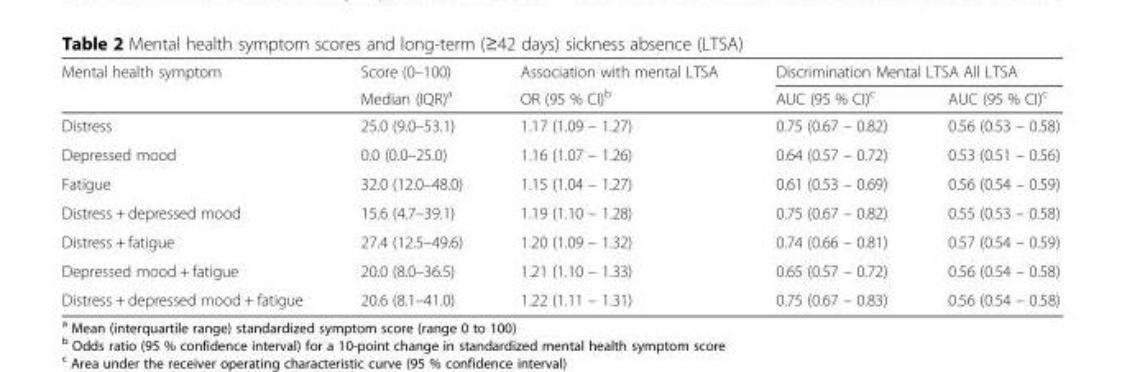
<table><thead><tr><td rowspan="2">Mental health symptom</td><td rowspan="2">Score (0–100) Median (IQR)<sup>a</sup></td><td rowspan="2">Association with mental LTSA OR (95 % CI)<sup>b</sup></td><td colspan="2">Discrimination Mental LTSA All LTSA</td></tr><tr><td>AUC (95 % CI)<sup>c</sup></td><td>AUC (95 % CI)<sup>c</sup></td></tr></thead><tbody><tr><td>Distress</td><td>25.0 (9.0–53.1)</td><td>1.17 (1.09 – 1.27)</td><td>0.75 (0.67 – 0.82)</td><td>0.56 (0.53 – 0.58)</td></tr><tr><td>Depressed mood</td><td>0.0 (0.0–25.0)</td><td>1.16 (1.07 – 1.26)</td><td>0.64 (0.57 – 0.72)</td><td>0.53 (0.51 – 0.56)</td></tr><tr><td>Fatigue</td><td>32.0 (12.0–48.0)</td><td>1.15 (1.04 – 1.27)</td><td>0.61 (0.53 – 0.69)</td><td>0.56 (0.54 – 0.59)</td></tr><tr><td>Distress + depressed mood</td><td>15.6 (4.7–39.1)</td><td>1.19 (1.10 – 1.28)</td><td>0.75 (0.67 – 0.82)</td><td>0.55 (0.53 – 0.58)</td></tr><tr><td>Distress + fatigue</td><td>27.4 (12.5–49.6)</td><td>1.20 (1.09 – 1.32)</td><td>0.74 (0.66 – 0.81)</td><td>0.57 (0.54 – 0.59)</td></tr><tr><td>Depressed mood + fatigue</td><td>20.0 (8.0–36.5)</td><td>1.21 (1.10 – 1.33)</td><td>0.65 (0.57 – 0.72)</td><td>0.56 (0.54 – 0.58)</td></tr><tr><td>Distress + depressed mood + fatigue</td><td>20.6 (8.1–41.0)</td><td>1.22 (1.11 – 1.31)</td><td>0.75 (0.67 – 0.83)</td><td>0.56 (0.54 – 0.58)</td></tr></tbody></table>